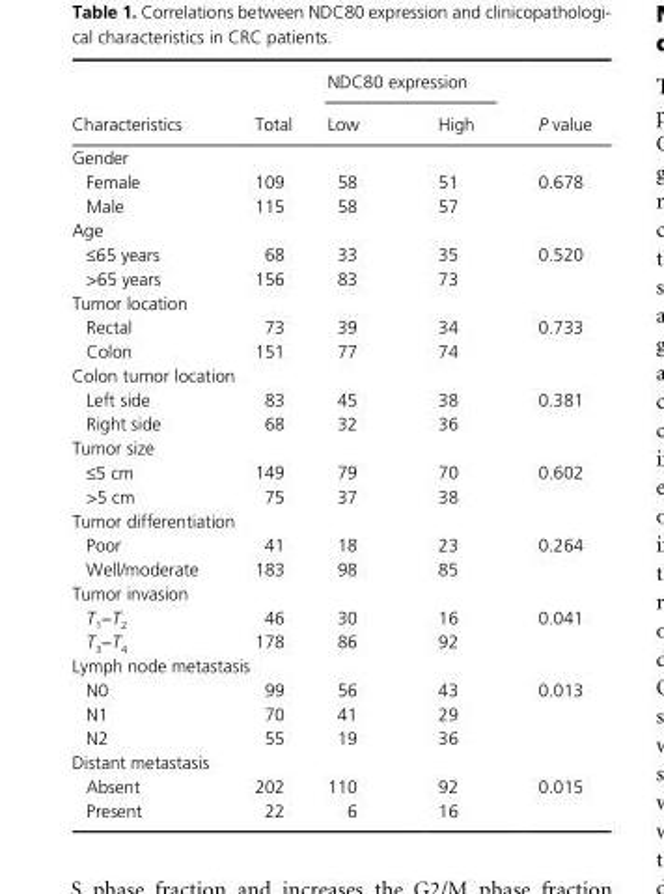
<table><thead><tr><td rowspan="2">Characteristics</td><td rowspan="2">Total</td><td colspan="2">NDC80 expression</td><td rowspan="2">P value</td></tr><tr><td>Low</td><td>High</td></tr></thead><tbody><tr><td colspan="5">Gender</td></tr><tr><td>Female</td><td>109</td><td>58</td><td>51</td><td rowspan="2">0.678</td></tr><tr><td>Male</td><td>115</td><td>58</td><td>57</td></tr><tr><td colspan="5">Age</td></tr><tr><td>≤65 years</td><td>68</td><td>33</td><td>35</td><td rowspan="2">0.520</td></tr><tr><td>&gt;65 years</td><td>156</td><td>83</td><td>73</td></tr><tr><td colspan="5">Tumor location</td></tr><tr><td>Rectal</td><td>73</td><td>39</td><td>34</td><td rowspan="2">0.733</td></tr><tr><td>Colon</td><td>151</td><td>77</td><td>74</td></tr><tr><td colspan="5">Colon tumor location</td></tr><tr><td>Left side</td><td>83</td><td>45</td><td>38</td><td>0.381</td></tr><tr><td>Right side</td><td>68</td><td>32</td><td>36</td><td></td></tr><tr><td colspan="5">Tumor size</td></tr><tr><td>≤5 cm</td><td>149</td><td>79</td><td>70</td><td rowspan="2">0.602</td></tr><tr><td>&gt;5 cm</td><td>75</td><td>37</td><td>38</td></tr><tr><td colspan="5">Tumor differentiation</td></tr><tr><td>Poor</td><td>41</td><td>18</td><td>23</td><td rowspan="2">0.264</td></tr><tr><td>Well/moderate</td><td>183</td><td>98</td><td>85</td></tr><tr><td colspan="5">Tumor invasion</td></tr><tr><td>T<sub>1</sub>−T<sub>2</sub></td><td>46</td><td>30</td><td>16</td><td rowspan="2">0.041</td></tr><tr><td>T<sub>3</sub>−T<sub>4</sub></td><td>178</td><td>86</td><td>92</td></tr><tr><td colspan="5">Lymph node metastasis</td></tr><tr><td>N0</td><td>99</td><td>56</td><td>43</td><td rowspan="2">0.013</td></tr><tr><td>N1</td><td>70</td><td>41</td><td>29</td></tr><tr><td>N2</td><td>55</td><td>19</td><td>36</td><td></td></tr><tr><td colspan="5">Distant metastasis</td></tr><tr><td>Absent</td><td>202</td><td>110</td><td>92</td><td rowspan="2">0.015</td></tr><tr><td>Present</td><td>22</td><td>6</td><td>16</td></tr></tbody></table>